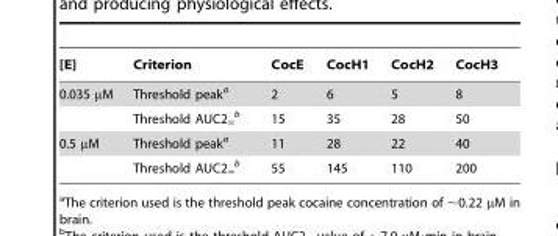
<table><thead><tr><td>[E]</td><td>Criterion</td><td>CocE</td><td>CocH1</td><td>CocH2</td><td>CocH3</td></tr></thead><tbody><tr><td rowspan="2">0.035 µM</td><td>Threshold peak<sup>a</sup></td><td>2</td><td>6</td><td>5</td><td>8</td></tr><tr><td>Threshold AUC2‘ b</td><td>15</td><td>35</td><td>28</td><td>50</td></tr><tr><td rowspan="2">0.5 µM</td><td>Threshold peak<sup>a</sup></td><td>11</td><td>28</td><td>22</td><td>40</td></tr><tr><td>Threshold AUC2‘ b</td><td>55</td><td>145</td><td>110</td><td>200</td></tr></tbody></table>